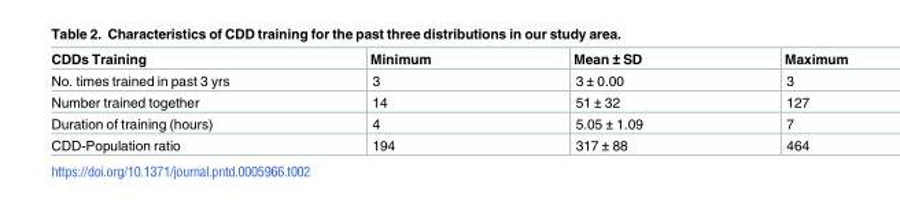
<table><thead><tr><td>CDDs Training</td><td>Minimum</td><td>Mean ± SD</td><td>Maximum</td></tr></thead><tbody><tr><td>No. times trained in past 3 yrs</td><td>3</td><td>3 ± 0.00</td><td>3</td></tr><tr><td>Number trained together</td><td>14</td><td>51 ± 32</td><td>127</td></tr><tr><td>Duration of training (hours)</td><td>4</td><td>5.05 ± 1.09</td><td>7</td></tr><tr><td>CDD-Population ratio</td><td>194</td><td>317 ± 88</td><td>464</td></tr></tbody></table>